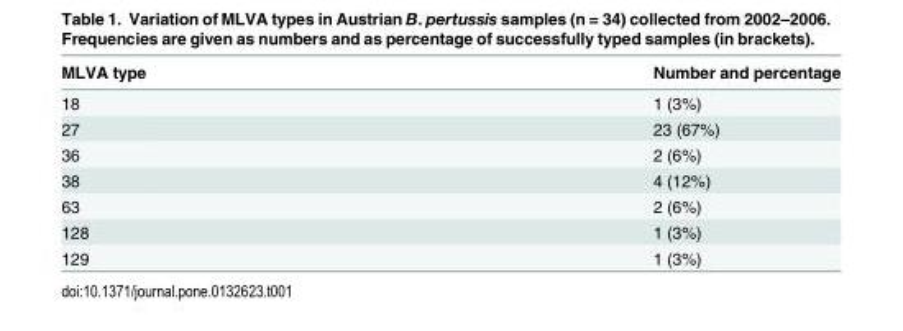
<table><thead><tr><td>MLVA type</td><td>Number and percentage</td></tr></thead><tbody><tr><td>18</td><td>1 (3%)</td></tr><tr><td>27</td><td>23 (67%)</td></tr><tr><td>36</td><td>2 (6%)</td></tr><tr><td>38</td><td>4 (12%)</td></tr><tr><td>63</td><td>2 (6%)</td></tr><tr><td>128</td><td>1 (3%)</td></tr><tr><td>129</td><td>1 (3%)</td></tr></tbody></table>